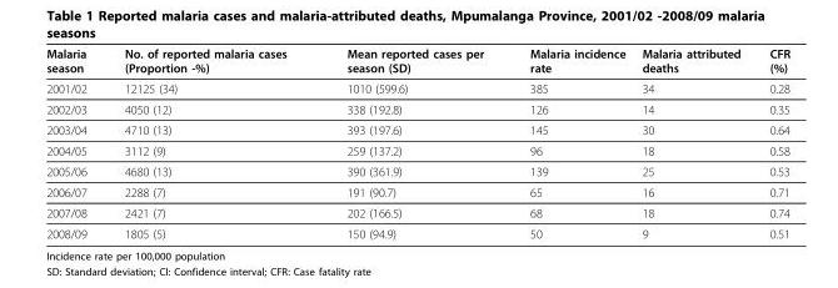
<table><thead><tr><td>Malaria season</td><td>No. of reported malaria cases (Proportion -%)</td><td>Mean reported cases per season (SD)</td><td>Malaria incidence rate</td><td>Malaria attributed deaths</td><td>CFR (%)</td></tr></thead><tbody><tr><td>2001/02</td><td>12125 (34)</td><td>1010 (599.6)</td><td>385</td><td>34</td><td>0.28</td></tr><tr><td>2002/03</td><td>4050 (12)</td><td>338 (192.8)</td><td>126</td><td>14</td><td>0.35</td></tr><tr><td>2003/04</td><td>4710 (13)</td><td>393 (197.6)</td><td>145</td><td>30</td><td>0.64</td></tr><tr><td>2004/05</td><td>3112 (9)</td><td>259 (137.2)</td><td>96</td><td>18</td><td>0.58</td></tr><tr><td>2005/06</td><td>4680 (13)</td><td>390 (361.9)</td><td>139</td><td>25</td><td>0.53</td></tr><tr><td>2006/07</td><td>2288 (7)</td><td>191 (90.7)</td><td>65</td><td>16</td><td>0.71</td></tr><tr><td>2007/08</td><td>2421 (7)</td><td>202 (166.5)</td><td>68</td><td>18</td><td>0.74</td></tr><tr><td>2008/09</td><td>1805 (5)</td><td>150 (94.9)</td><td>50</td><td>9</td><td>0.51</td></tr></tbody></table>